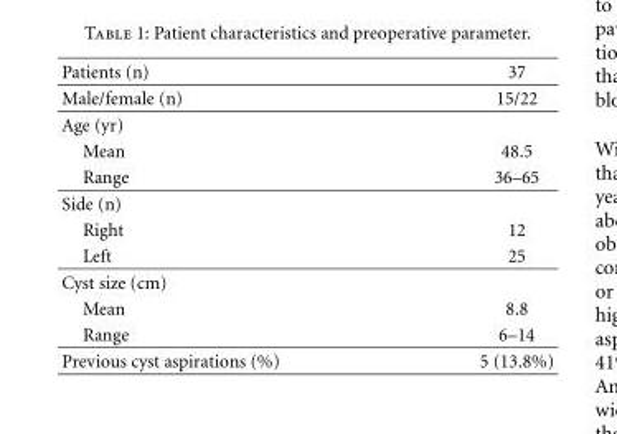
<table><thead><tr><td>Patients (n)</td><td>37</td></tr></thead><tbody><tr><td>Male/female (n)</td><td>15/22</td></tr><tr><td colspan="2">Age (yr)</td></tr><tr><td>Mean</td><td>48.5</td></tr><tr><td>Range</td><td>36–65</td></tr><tr><td colspan="2">Side (n)</td></tr><tr><td>Right</td><td>12</td></tr><tr><td>Left</td><td>25</td></tr><tr><td colspan="2">Cyst size (cm)</td></tr><tr><td>Mean</td><td>8.8</td></tr><tr><td>Range</td><td>6–14</td></tr><tr><td>Previous cyst aspirations (%)</td><td>5 (13.8%)</td></tr></tbody></table>